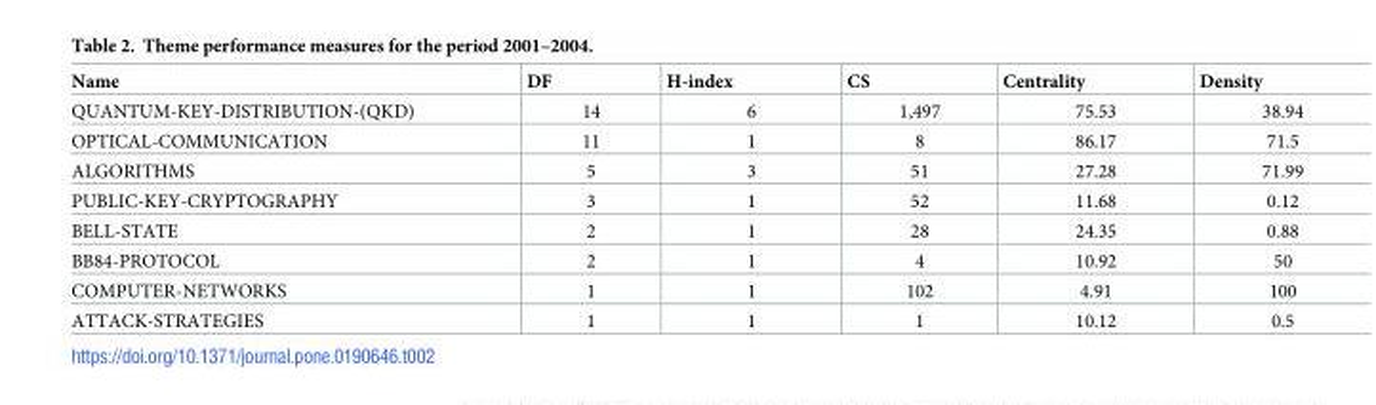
<table><thead><tr><td>Name</td><td>DF</td><td>H-index</td><td>CS</td><td>Centrality</td><td>Density</td></tr></thead><tbody><tr><td>QUANTUM-KEY-DISTRIBUTION-(QKD)</td><td>14</td><td>6</td><td>1,497</td><td>75.53</td><td>38.94</td></tr><tr><td>OPTICAL-COMMUNICATION</td><td>11</td><td>1</td><td>8</td><td>86.17</td><td>71.5</td></tr><tr><td>ALGORITHMS</td><td>5</td><td>3</td><td>51</td><td>27.28</td><td>71.99</td></tr><tr><td>PUBLIC-KEY-CRYPTOGRAPHY</td><td>3</td><td>1</td><td>52</td><td>11.68</td><td>0.12</td></tr><tr><td>BELL-STATE</td><td>2</td><td>1</td><td>28</td><td>24.35</td><td>0.88</td></tr><tr><td>BB84-PROTOCOL</td><td>2</td><td>1</td><td>4</td><td>10.92</td><td>50</td></tr><tr><td>COMPUTER-NETWORKS</td><td>1</td><td>1</td><td>102</td><td>4.91</td><td>100</td></tr><tr><td>ATTACK-STRATEGIES</td><td>1</td><td>1</td><td>1</td><td>10.12</td><td>0.5</td></tr></tbody></table>